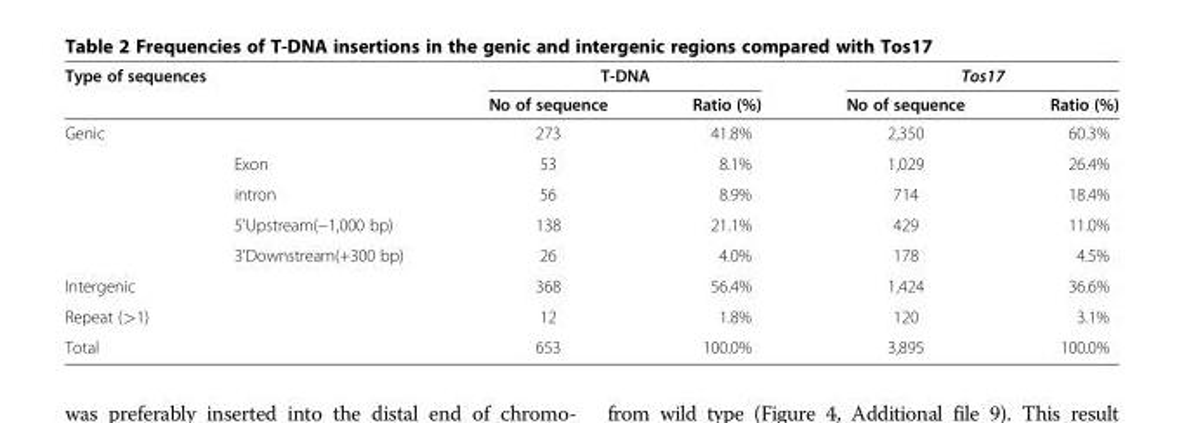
<table><thead><tr><td rowspan="2">Type of sequences</td><td rowspan="2"></td><td colspan="2">T-DNA</td><td colspan="2">Tos17</td></tr><tr><td>No of sequence</td><td>Ratio (%)</td><td>No of sequence</td><td>Ratio (%)</td></tr></thead><tbody><tr><td rowspan="5">Genic</td><td></td><td>273</td><td>41.8%</td><td>2,350</td><td>60.3%</td></tr><tr><td>Exon</td><td>53</td><td>8.1%</td><td>1,029</td><td>26.4%</td></tr><tr><td>intron</td><td>56</td><td>8.9%</td><td>714</td><td>18.4%</td></tr><tr><td>5&#x27;Upstream(−1,000 bp)</td><td>138</td><td>21.1%</td><td>429</td><td>11.0%</td></tr><tr><td>3&#x27;Downstream(+300 bp)</td><td>26</td><td>4.0%</td><td>178</td><td>4.5%</td></tr><tr><td>Intergenic</td><td></td><td>368</td><td>56.4%</td><td>1,424</td><td>36.6%</td></tr><tr><td>Repeat (&gt;1)</td><td></td><td>12</td><td>1.8%</td><td>120</td><td>3.1%</td></tr><tr><td>Total</td><td></td><td>653</td><td>100.0%</td><td>3,895</td><td>100.0%</td></tr></tbody></table>